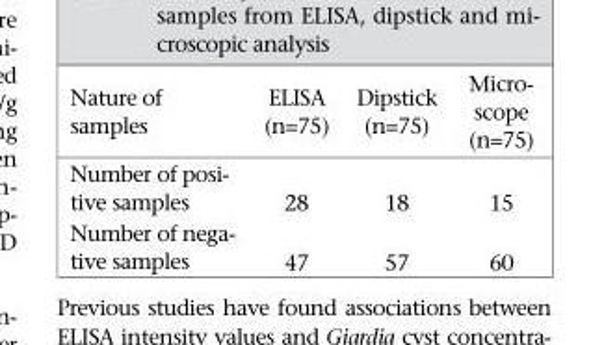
<table><thead><tr><td>Nature of samples</td><td>ELISA (n=75)</td><td>Dipstick (n=75)</td><td>Micro- scope (n=75)</td></tr></thead><tbody><tr><td>Number of posi- tive samples</td><td>28</td><td>18</td><td>15</td></tr><tr><td>Number of nega- tive samples</td><td>47</td><td>57</td><td>60</td></tr></tbody></table>